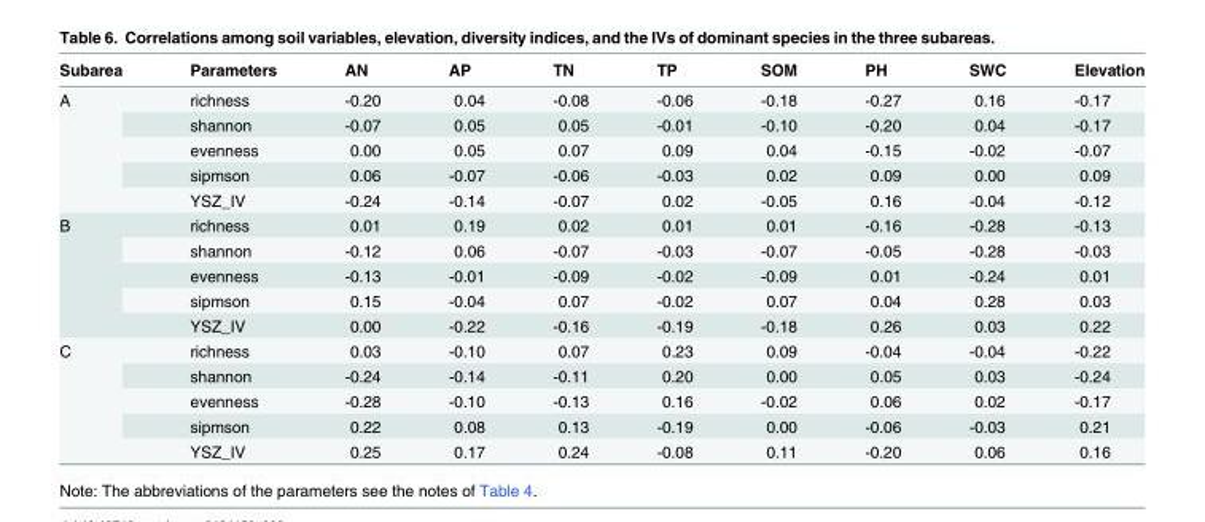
<table><thead><tr><td>Subarea</td><td>Parameters</td><td>AN</td><td>AP</td><td>TN</td><td>TP</td><td>SOM</td><td>PH</td><td>SWC</td><td>Elevation</td></tr></thead><tbody><tr><td rowspan="5">A</td><td>richness</td><td>-0.20</td><td>0.04</td><td>-0.08</td><td>-0.06</td><td>-0.18</td><td>-0.27</td><td>0.16</td><td>-0.17</td></tr><tr><td>shannon</td><td>-0.07</td><td>0.05</td><td>0.05</td><td>-0.01</td><td>-0.10</td><td>-0.20</td><td>0.04</td><td>-0.17</td></tr><tr><td>evenness</td><td>0.00</td><td>0.05</td><td>0.07</td><td>0.09</td><td>0.04</td><td>-0.15</td><td>-0.02</td><td>-0.07</td></tr><tr><td>sipmson</td><td>0.06</td><td>-0.07</td><td>-0.06</td><td>-0.03</td><td>0.02</td><td>0.09</td><td>0.00</td><td>0.09</td></tr><tr><td>YSZ_IV</td><td>-0.24</td><td>-0.14</td><td>-0.07</td><td>0.02</td><td>-0.05</td><td>0.16</td><td>-0.04</td><td>-0.12</td></tr><tr><td rowspan="5">B</td><td>richness</td><td>0.01</td><td>0.19</td><td>0.02</td><td>0.01</td><td>0.01</td><td>-0.16</td><td>-0.28</td><td>-0.13</td></tr><tr><td>shannon</td><td>-0.12</td><td>0.06</td><td>-0.07</td><td>-0.03</td><td>-0.07</td><td>-0.05</td><td>-0.28</td><td>-0.03</td></tr><tr><td>evenness</td><td>-0.13</td><td>-0.01</td><td>-0.09</td><td>-0.02</td><td>-0.09</td><td>0.01</td><td>-0.24</td><td>0.01</td></tr><tr><td>sipmson</td><td>0.15</td><td>-0.04</td><td>0.07</td><td>-0.02</td><td>0.07</td><td>0.04</td><td>0.28</td><td>0.03</td></tr><tr><td>YSZ_IV</td><td>0.00</td><td>-0.22</td><td>-0.16</td><td>-0.19</td><td>-0.18</td><td>0.26</td><td>0.03</td><td>0.22</td></tr><tr><td rowspan="5">C</td><td>richness</td><td>0.03</td><td>-0.10</td><td>0.07</td><td>0.23</td><td>0.09</td><td>-0.04</td><td>-0.04</td><td>-0.22</td></tr><tr><td>shannon</td><td>-0.24</td><td>-0.14</td><td>-0.11</td><td>0.20</td><td>0.00</td><td>0.05</td><td>0.03</td><td>-0.24</td></tr><tr><td>evenness</td><td>-0.28</td><td>-0.10</td><td>-0.13</td><td>0.16</td><td>-0.02</td><td>0.06</td><td>0.02</td><td>-0.17</td></tr><tr><td>sipmson</td><td>0.22</td><td>0.08</td><td>0.13</td><td>-0.19</td><td>0.00</td><td>-0.06</td><td>-0.03</td><td>0.21</td></tr><tr><td>YSZ_IV</td><td>0.25</td><td>0.17</td><td>0.24</td><td>-0.08</td><td>0.11</td><td>-0.20</td><td>0.06</td><td>0.16</td></tr></tbody></table>